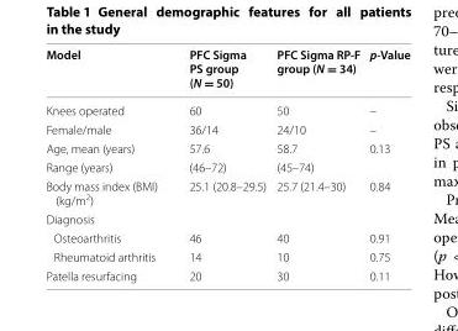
<table><thead><tr><td>Model</td><td>PFC Sigma PS group (N = 50)</td><td>PFC Sigma RP-F group (N = 34)</td><td>p-Value</td></tr></thead><tbody><tr><td>Knees operated</td><td>60</td><td>50</td><td>–</td></tr><tr><td>Female/male</td><td>36/14</td><td>24/10</td><td>–</td></tr><tr><td>Age, mean (years)</td><td>57.6</td><td>58.7</td><td rowspan="2">0.13</td></tr><tr><td>Range (years)</td><td>(46–72)</td><td>(45–74)</td></tr><tr><td>Body mass index (BMI) (kg/m<sup>2</sup>)</td><td>25.1 (20.8–29.5)</td><td>25.7 (21.4–30)</td><td>0.84</td></tr><tr><td colspan="4">Diagnosis</td></tr><tr><td>Osteoarthritis</td><td>46</td><td>40</td><td>0.91</td></tr><tr><td>Rheumatoid arthritis</td><td>14</td><td>10</td><td>0.75</td></tr><tr><td>Patella resurfacing</td><td>20</td><td>30</td><td>0.11</td></tr></tbody></table>